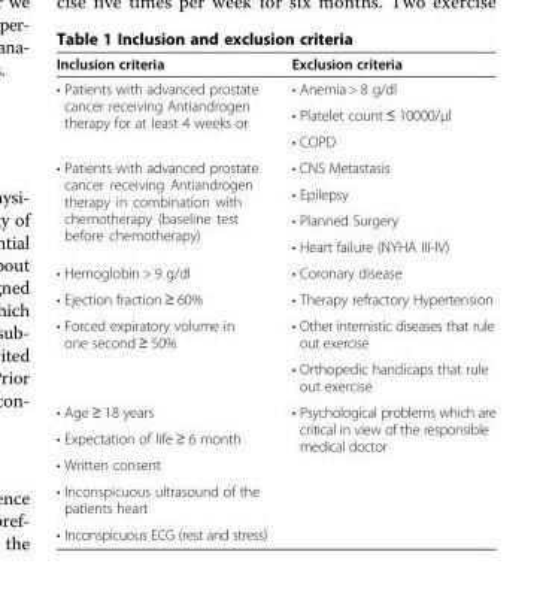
<table><thead><tr><td>Inclusion criteria</td><td>Exclusion criteria</td></tr></thead><tbody><tr><td rowspan="3">• Patients with advanced prostate cancer receiving Antiandrogen therapy for at least 4 weeks or</td><td>• Anemia &gt; 8 g/dl</td></tr><tr><td>• Platelet count ≤ 10000/μl</td></tr><tr><td>• COPD</td></tr><tr><td rowspan="4">• Patients with advanced prostate cancer receiving Antiandrogen therapy in combination with chemotherapy (baseline test before chemotherapy)</td><td>• CNS Metastasis</td></tr><tr><td>• Epilepsy</td></tr><tr><td>• Planned Surgery</td></tr><tr><td>• Heart failure (NYHA III-IV)</td></tr><tr><td>• Hemoglobin &gt; 9 g/dl</td><td>• Coronary disease</td></tr><tr><td>• Ejection fraction ≥ 60%</td><td>• Therapy refractory Hypertension</td></tr><tr><td rowspan="2">• Forced expiratory volume in one second ≥ 50%</td><td>• Other internistic diseases that rule out exercise</td></tr><tr><td>• Orthopedic handicaps that rule out exercise</td></tr><tr><td>• Age ≥ 18 years</td><td rowspan="4">• Psychological problems which are critical in view of the responsible medical doctor</td></tr><tr><td>• Expectation of life ≥ 6 month</td></tr><tr><td>• Written consent</td></tr><tr><td>• Inconspicuous ultrasound of the patients heart</td></tr><tr><td>• Inconspicuous ECG (rest and stress)</td><td></td></tr></tbody></table>